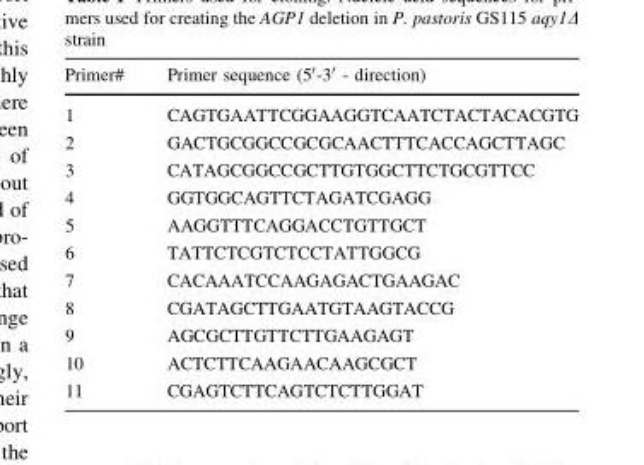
<table><thead><tr><td>Primer#</td><td>Primer sequence (5′-3′ - direction)</td></tr></thead><tbody><tr><td>1</td><td>CAGTGAATTCGGAAGGTCAATCTACTACACGTG</td></tr><tr><td>2</td><td>GACTGCGGCCGCGCAACTTTCACCAGCTTAGC</td></tr><tr><td>3</td><td>CATAGCGGCCGCTTGTGGCTTCTGCGTTCC</td></tr><tr><td>4</td><td>GGTGGCAGTTCTAGATCGAGG</td></tr><tr><td>5</td><td>AAGGTTTCAGGACCTGTTGCT</td></tr><tr><td>6</td><td>TATTCTCGTCTCCTATTGGCG</td></tr><tr><td>7</td><td>CACAAATCCAAGAGACTGAAGAC</td></tr><tr><td>8</td><td>CGATAGCTTGAATGTAAGTACCG</td></tr><tr><td>9</td><td>AGCGCTTGTTCTTGAAGAGT</td></tr><tr><td>10</td><td>ACTCTTCAAGAACAAGCGCT</td></tr><tr><td>11</td><td>CGAGTCTTCAGTCTCTTGGAT</td></tr></tbody></table>